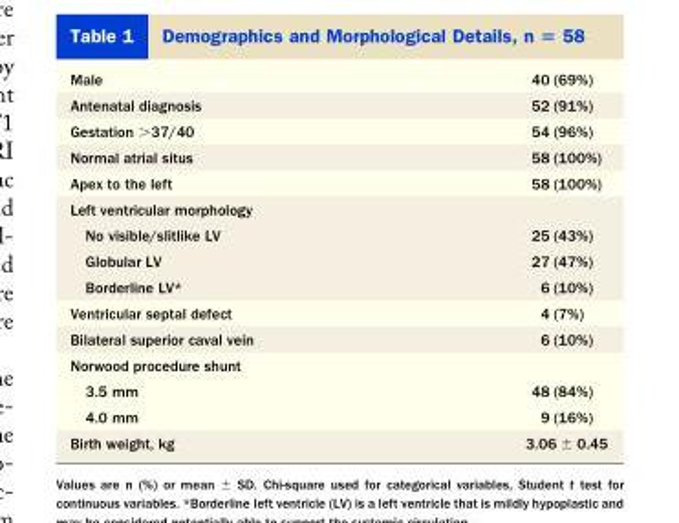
<table><tbody><tr><td>Male</td><td>40 (69%)</td></tr><tr><td>Antenatal diagnosis</td><td>52 (91%)</td></tr><tr><td>Gestation &gt;37/40</td><td>54 (96%)</td></tr><tr><td>Normal atrial situs</td><td>58 (100%)</td></tr><tr><td>Apex to the left</td><td>58 (100%)</td></tr><tr><td colspan="2">Left ventricular morphology</td></tr><tr><td>No visible/slitlike LV</td><td>25 (43%)</td></tr><tr><td>Globular LV</td><td>27 (47%)</td></tr><tr><td>Borderline LV*</td><td>6 (10%)</td></tr><tr><td>Ventricular septal defect</td><td>4 (7%)</td></tr><tr><td>Bilateral superior caval vein</td><td>6 (10%)</td></tr><tr><td colspan="2">Norwood procedure shunt</td></tr><tr><td>3.5 mm</td><td>48 (84%)</td></tr><tr><td>4.0 mm</td><td>9 (16%)</td></tr><tr><td>Birth weight, kg</td><td>3.06 ± 0.45</td></tr></tbody></table>